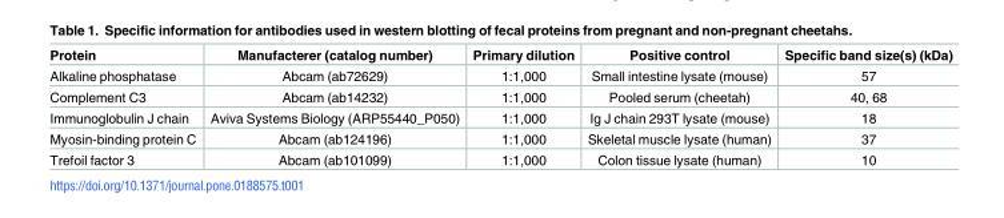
<table><thead><tr><td>Protein</td><td>Manufacterer (catalog number)</td><td>Primary dilution</td><td>Positive control</td><td>Specific band size(s) (kDa)</td></tr></thead><tbody><tr><td>Alkaline phosphatase</td><td>Abcam (ab72629)</td><td>1:1,000</td><td>Small intestine lysate (mouse)</td><td>57</td></tr><tr><td>Complement C3</td><td>Abcam (ab14232)</td><td>1:1,000</td><td>Pooled serum (cheetah)</td><td>40, 68</td></tr><tr><td>Immunoglobulin J chain</td><td>Aviva Systems Biology (ARP55440_P050)</td><td>1:1,000</td><td>Ig J chain 293T lysate (mouse)</td><td>18</td></tr><tr><td>Myosin-binding protein C</td><td>Abcam (ab124196)</td><td>1:1,000</td><td>Skeletal muscle lysate (human)</td><td>37</td></tr><tr><td>Trefoil factor 3</td><td>Abcam (ab101099)</td><td>1:1,000</td><td>Colon tissue lysate (human)</td><td>10</td></tr></tbody></table>